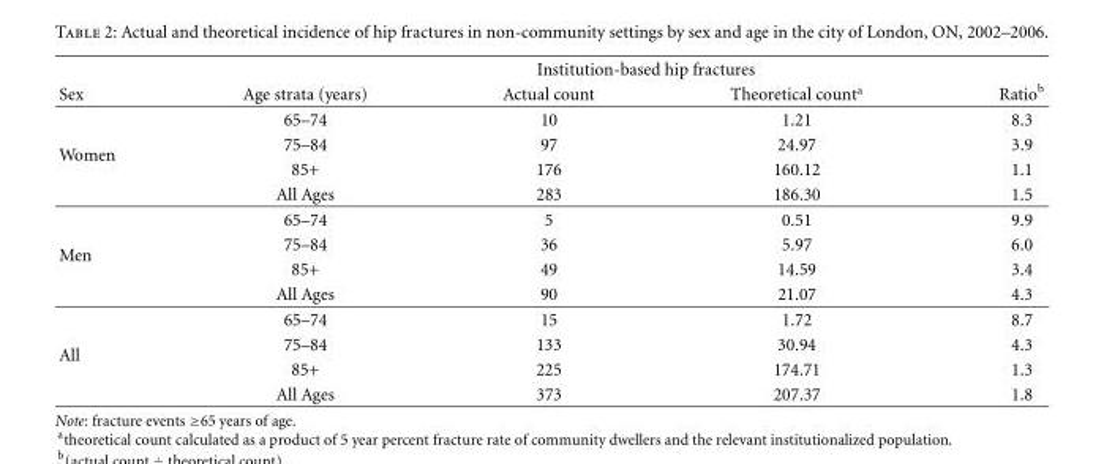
<table><thead><tr><td rowspan="2">Sex</td><td colspan="4">Institution-based hip fractures</td></tr><tr><td>Age strata (years)</td><td>Actual count</td><td>Theoretical count<sup>a</sup></td><td>Ratio<sup>b</sup></td></tr></thead><tbody><tr><td rowspan="4">Women</td><td>65–74</td><td>10</td><td>1.21</td><td>8.3</td></tr><tr><td>75–84</td><td>97</td><td>24.97</td><td>3.9</td></tr><tr><td>85+</td><td>176</td><td>160.12</td><td>1.1</td></tr><tr><td>All Ages</td><td>283</td><td>186.30</td><td>1.5</td></tr><tr><td rowspan="4">Men</td><td>65–74</td><td>5</td><td>0.51</td><td>9.9</td></tr><tr><td>75–84</td><td>36</td><td>5.97</td><td>6.0</td></tr><tr><td>85+</td><td>49</td><td>14.59</td><td>3.4</td></tr><tr><td>All Ages</td><td>90</td><td>21.07</td><td>4.3</td></tr><tr><td rowspan="4">All</td><td>65–74</td><td>15</td><td>1.72</td><td>8.7</td></tr><tr><td>75–84</td><td>133</td><td>30.94</td><td>4.3</td></tr><tr><td>85+</td><td>225</td><td>174.71</td><td>1.3</td></tr><tr><td>All Ages</td><td>373</td><td>207.37</td><td>1.8</td></tr></tbody></table>